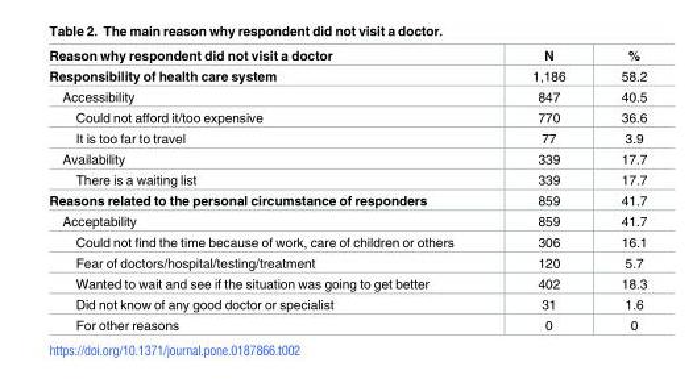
<table><thead><tr><td>Reason why respondent did not visit a doctor</td><td>N</td><td>%</td></tr></thead><tbody><tr><td>Responsibility of health care system</td><td>1,186</td><td>58.2</td></tr><tr><td>Accessibility</td><td>847</td><td>40.5</td></tr><tr><td>Could not afford it/too expensive</td><td>770</td><td>36.6</td></tr><tr><td>It is too far to travel</td><td>77</td><td>3.9</td></tr><tr><td>Availability</td><td>339</td><td>17.7</td></tr><tr><td>There is a waiting list</td><td>339</td><td>17.7</td></tr><tr><td>Reasons related to the personal circumstance of responders</td><td>859</td><td>41.7</td></tr><tr><td>Acceptability</td><td>859</td><td>41.7</td></tr><tr><td>Could not find the time because of work, care of children or others</td><td>306</td><td>16.1</td></tr><tr><td>Fear of doctors/hospital/testing/treatment</td><td>120</td><td>5.7</td></tr><tr><td>Wanted to wait and see if the situation was going to get better</td><td>402</td><td>18.3</td></tr><tr><td>Did not know of any good doctor or specialist</td><td>31</td><td>1.6</td></tr><tr><td>For other reasons</td><td>0</td><td>0</td></tr></tbody></table>